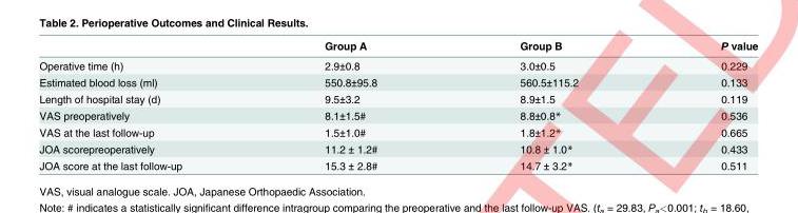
<table><thead><tr><td></td><td>Group A</td><td>Group B</td><td>P value</td></tr></thead><tbody><tr><td>Operative time (h)</td><td>2.9±0.8</td><td>3.0±0.5</td><td>0.229</td></tr><tr><td>Estimated blood loss (ml)</td><td>550.8±95.8</td><td>560.5±115.2</td><td>0.133</td></tr><tr><td>Length of hospital stay (d)</td><td>9.5±3.2</td><td>8.9±1.5</td><td>0.119</td></tr><tr><td>VAS preoperatively</td><td>8.1±1.5#</td><td>8.8±0.8*</td><td>0.536</td></tr><tr><td>VAS at the last follow-up</td><td>1.5±1.0#</td><td>1.8±1.2*</td><td>0.665</td></tr><tr><td>JOA scorepreoperatively</td><td>11.2 ± 1.2#</td><td>10.8 ± 1.0*</td><td>0.433</td></tr><tr><td>JOA score at the last follow-up</td><td>15.3 ± 2.8#</td><td>14.7 ± 3.2*</td><td>0.511</td></tr></tbody></table>